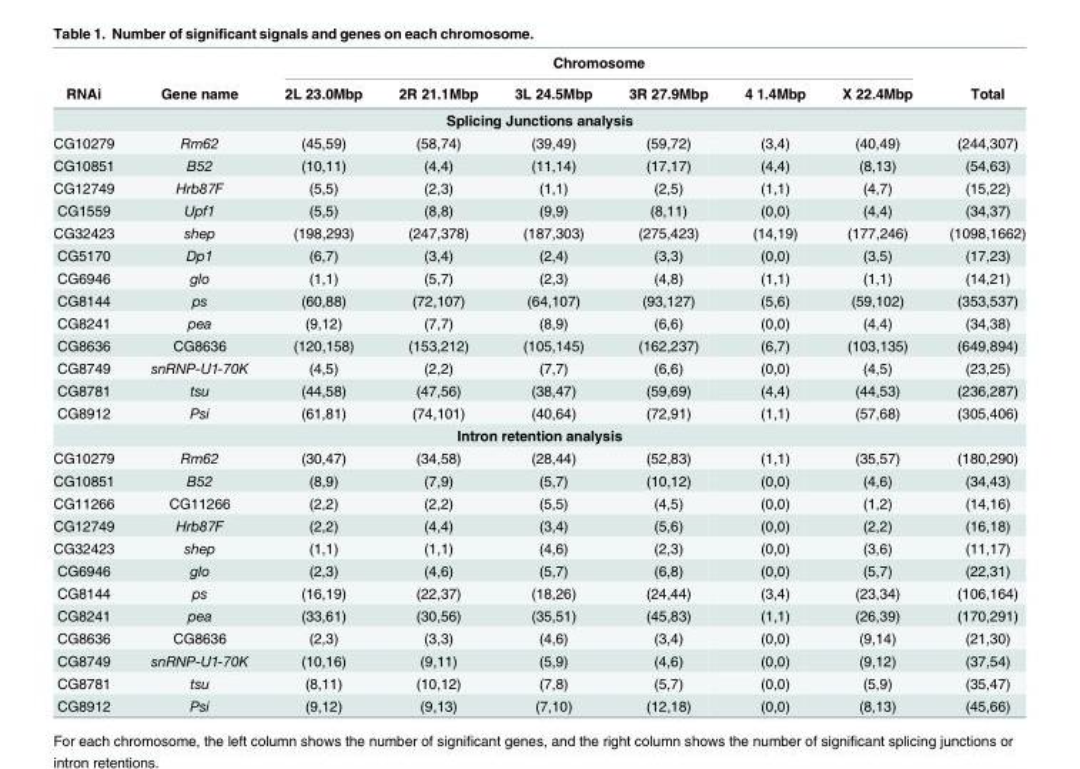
<table><thead><tr><td rowspan="2">RNAi</td><td rowspan="2">Gene name</td><td colspan="6">Chromosome</td><td rowspan="2">Total</td></tr><tr><td>2L 23.0Mbp</td><td>2R 21.1Mbp</td><td>3L 24.5Mbp</td><td>3R 27.9Mbp</td><td>4 1.4Mbp</td><td>X 22.4Mbp</td></tr></thead><tbody><tr><td colspan="9">Splicing Junctions analysis</td></tr><tr><td>CG10279</td><td>Rm62</td><td>(45,59)</td><td>(58,74)</td><td>(39,49)</td><td>(59,72)</td><td>(3,4)</td><td>(40,49)</td><td>(244,307)</td></tr><tr><td>CG10851</td><td>B52</td><td>(10,11)</td><td>(4,4)</td><td>(11,14)</td><td>(17,17)</td><td>(4,4)</td><td>(8,13)</td><td>(54,63)</td></tr><tr><td>CG12749</td><td>Hrb87F</td><td>(5,5)</td><td>(2,3)</td><td>(1,1)</td><td>(2,5)</td><td>(1,1)</td><td>(4,7)</td><td>(15,22)</td></tr><tr><td>CG1559</td><td>Upf1</td><td>(5,5)</td><td>(8,8)</td><td>(9,9)</td><td>(8,11)</td><td>(0,0)</td><td>(4,4)</td><td>(34,37)</td></tr><tr><td>CG32423</td><td>shep</td><td>(198,293)</td><td>(247,378)</td><td>(187,303)</td><td>(275,423)</td><td>(14,19)</td><td>(177,246)</td><td>(1098,1662)</td></tr><tr><td>CG5170</td><td>Dp1</td><td>(6,7)</td><td>(3,4)</td><td>(2,4)</td><td>(3,3)</td><td>(0,0)</td><td>(3,5)</td><td>(17,23)</td></tr><tr><td>CG6946</td><td>glo</td><td>(1,1)</td><td>(5,7)</td><td>(2,3)</td><td>(4,8)</td><td>(1,1)</td><td>(1,1)</td><td>(14,21)</td></tr><tr><td>CG8144</td><td>ps</td><td>(60,88)</td><td>(72,107)</td><td>(64,107)</td><td>(93,127)</td><td>(5,6)</td><td>(59,102)</td><td>(353,537)</td></tr><tr><td>CG8241</td><td>pea</td><td>(9,12)</td><td>(7,7)</td><td>(8,9)</td><td>(6,6)</td><td>(0,0)</td><td>(4,4)</td><td>(34,38)</td></tr><tr><td>CG8636</td><td>CG8636</td><td>(120,158)</td><td>(153,212)</td><td>(105,145)</td><td>(162,237)</td><td>(6,7)</td><td>(103,135)</td><td>(649,894)</td></tr><tr><td>CG8749</td><td>snRNP-U1-70K</td><td>(4,5)</td><td>(2,2)</td><td>(7,7)</td><td>(6,6)</td><td>(0,0)</td><td>(4,5)</td><td>(23,25)</td></tr><tr><td>CG8781</td><td>tsu</td><td>(44,58)</td><td>(47,56)</td><td>(38,47)</td><td>(59,69)</td><td>(4,4)</td><td>(44,53)</td><td>(236,287)</td></tr><tr><td>CG8912</td><td>Psi</td><td>(61,81)</td><td>(74,101)</td><td>(40,64)</td><td>(72,91)</td><td>(1,1)</td><td>(57,68)</td><td>(305,406)</td></tr><tr><td colspan="9">Intron retention analysis</td></tr><tr><td>CG10279</td><td>Rm62</td><td>(30,47)</td><td>(34,58)</td><td>(28,44)</td><td>(52,83)</td><td>(1,1)</td><td>(35,57)</td><td>(180,290)</td></tr><tr><td>CG10851</td><td>B52</td><td>(8,9)</td><td>(7,9)</td><td>(5,7)</td><td>(10,12)</td><td>(0,0)</td><td>(4,6)</td><td>(34,43)</td></tr><tr><td>CG11266</td><td>CG11266</td><td>(2,2)</td><td>(2,2)</td><td>(5,5)</td><td>(4,5)</td><td>(0,0)</td><td>(1,2)</td><td>(14,16)</td></tr><tr><td>CG12749</td><td>Hrb87F</td><td>(2,2)</td><td>(4,4)</td><td>(3,4)</td><td>(5,6)</td><td>(0,0)</td><td>(2,2)</td><td>(16,18)</td></tr><tr><td>CG32423</td><td>shep</td><td>(1,1)</td><td>(1,1)</td><td>(4,6)</td><td>(2,3)</td><td>(0,0)</td><td>(3,6)</td><td>(11,17)</td></tr><tr><td>CG6946</td><td>glo</td><td>(2,3)</td><td>(4,6)</td><td>(5,7)</td><td>(6,8)</td><td>(0,0)</td><td>(5,7)</td><td>(22,31)</td></tr><tr><td>CG8144</td><td>ps</td><td>(16,19)</td><td>(22,37)</td><td>(18,26)</td><td>(24,44)</td><td>(3,4)</td><td>(23,34)</td><td>(106,164)</td></tr><tr><td>CG8241</td><td>pea</td><td>(33,61)</td><td>(30,56)</td><td>(35,51)</td><td>(45,83)</td><td>(1,1)</td><td>(26,39)</td><td>(170,291)</td></tr><tr><td>CG8636</td><td>CG8636</td><td>(2,3)</td><td>(3,3)</td><td>(4,6)</td><td>(3,4)</td><td>(0,0)</td><td>(9,14)</td><td>(21,30)</td></tr><tr><td>CG8749</td><td>snRNP-U1-70K</td><td>(10,16)</td><td>(9,11)</td><td>(5,9)</td><td>(4,6)</td><td>(0,0)</td><td>(9,12)</td><td>(37,54)</td></tr><tr><td>CG8781</td><td>tsu</td><td>(8,11)</td><td>(10,12)</td><td>(7,8)</td><td>(5,7)</td><td>(0,0)</td><td>(5,9)</td><td>(35,47)</td></tr><tr><td>CG8912</td><td>Psi</td><td>(9,12)</td><td>(9,13)</td><td>(7,10)</td><td>(12,18)</td><td>(0,0)</td><td>(8,13)</td><td>(45,66)</td></tr></tbody></table>